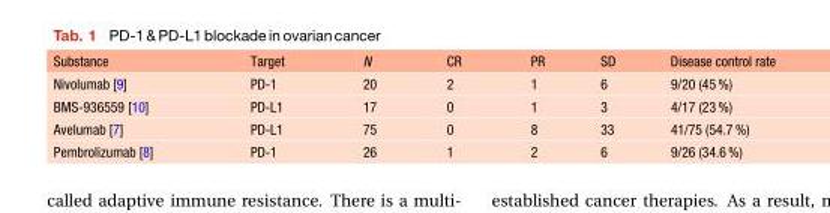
<table><thead><tr><td>Substance</td><td>Target</td><td>N</td><td>CR</td><td>PR</td><td>SD</td><td>Disease control rate</td></tr></thead><tbody><tr><td>Nivolumab [9]</td><td>PD-1</td><td>20</td><td>2</td><td>1</td><td>6</td><td>9/20 (45 %)</td></tr><tr><td>BMS-936559 [10]</td><td>PD-L1</td><td>17</td><td>0</td><td>1</td><td>3</td><td>4/17 (23 %)</td></tr><tr><td>Avelumab [7]</td><td>PD-L1</td><td>75</td><td>0</td><td>8</td><td>33</td><td>41/75 (54.7 %)</td></tr><tr><td>Pembrolizumab [8]</td><td>PD-1</td><td>26</td><td>1</td><td>2</td><td>6</td><td>9/26 (34.6 %)</td></tr></tbody></table>